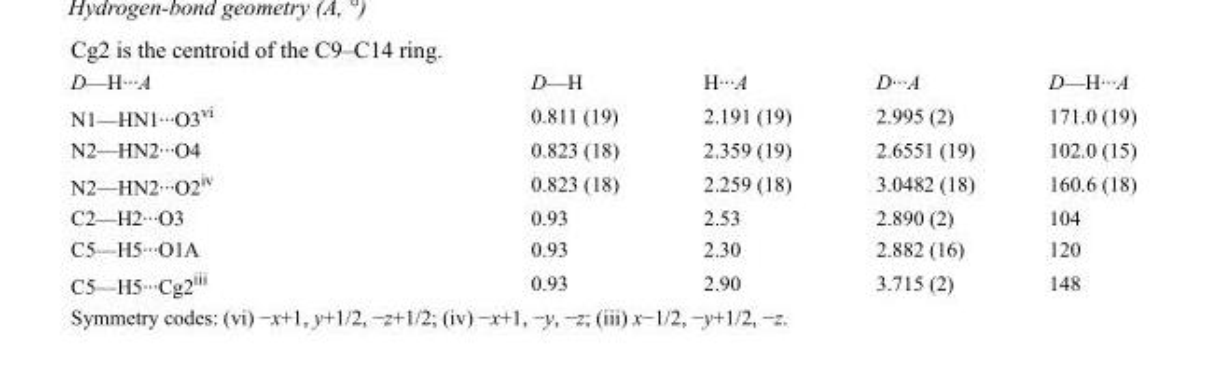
<table><tbody><tr><td>D—H···A</td><td>D—H</td><td>H···A</td><td>D···A</td><td>D—H···A</td></tr><tr><td>N1—HN1···O3<sup>vi</sup></td><td>0.811 (19)</td><td>2.191 (19)</td><td>2.995 (2)</td><td>171.0 (19)</td></tr><tr><td>N2—HN2···O4</td><td>0.823 (18)</td><td>2.359 (19)</td><td>2.6551 (19)</td><td>102.0 (15)</td></tr><tr><td>N2—HN2···O2<sup>iv</sup></td><td>0.823 (18)</td><td>2.259 (18)</td><td>3.0482 (18)</td><td>160.6 (18)</td></tr><tr><td>C2—H2···O3</td><td>0.93</td><td>2.53</td><td>2.890 (2)</td><td>104</td></tr><tr><td>C5—H5···O1A</td><td>0.93</td><td>2.30</td><td>2.882 (16)</td><td>120</td></tr><tr><td>C5—H5···Cg2<sup>iii</sup></td><td>0.93</td><td>2.90</td><td>3.715 (2)</td><td>148</td></tr></tbody></table>